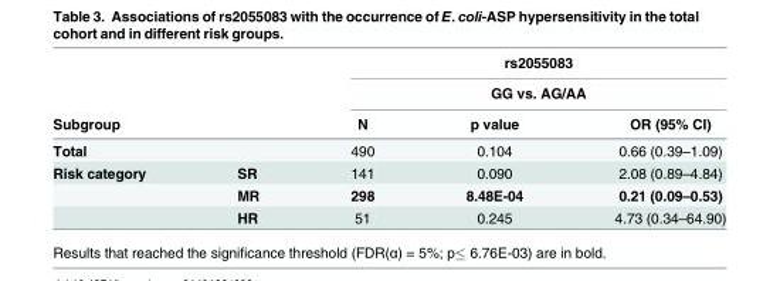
<table><thead><tr><td rowspan="2"></td><td rowspan="2"></td><td rowspan="2" colspan="3">rs2055083 GG vs. AG/AA</td></tr><tr></tr><tr><td colspan="2">Subgroup</td><td>N</td><td>p value</td><td>OR (95% CI)</td></tr></thead><tbody><tr><td>Total</td><td></td><td>490</td><td>0.104</td><td>0.66 (0.39–1.09)</td></tr><tr><td rowspan="3">Risk category</td><td>SR</td><td>141</td><td>0.090</td><td>2.08 (0.89–4.84)</td></tr><tr><td>MR</td><td>298</td><td>8.48E-04</td><td>0.21 (0.09–0.53)</td></tr><tr><td>HR</td><td>51</td><td>0.245</td><td>4.73 (0.34–64.90)</td></tr></tbody></table>